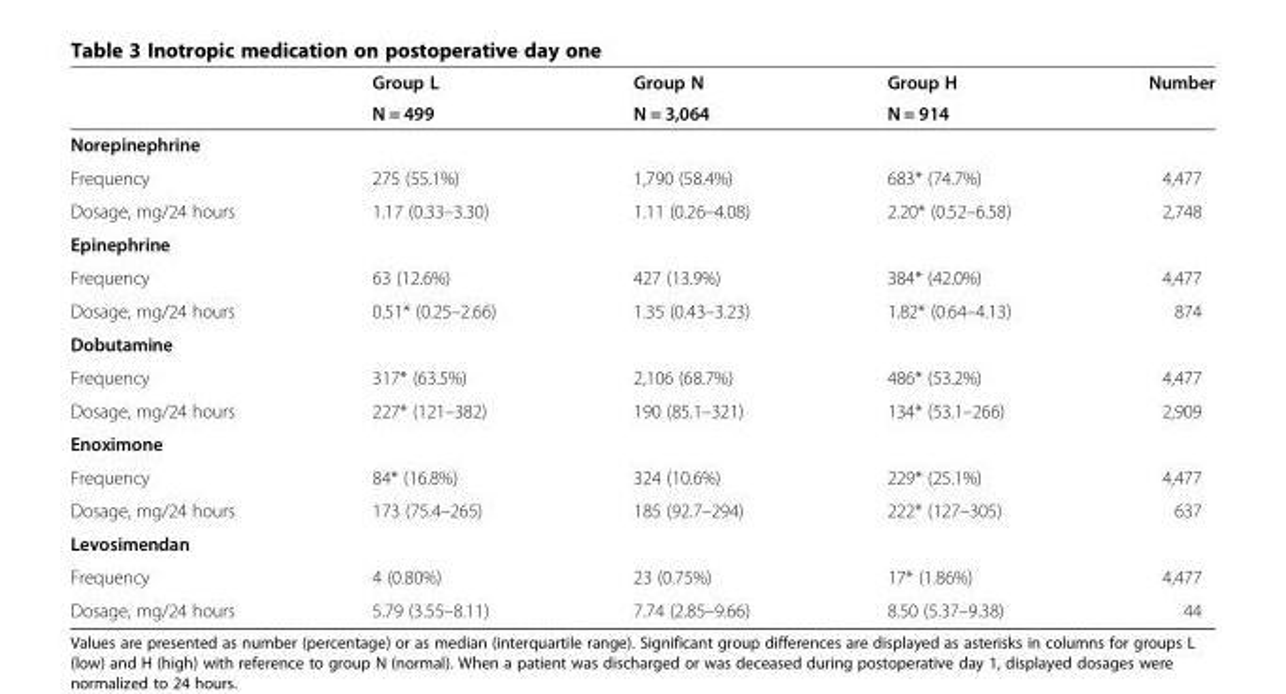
<table><thead><tr><td rowspan="2"></td><td rowspan="2">Group L N = 499</td><td rowspan="2">Group N N = 3,064</td><td rowspan="2">Group H N = 914</td><td rowspan="2">Number</td></tr><tr></tr></thead><tbody><tr><td colspan="5">Norepinephrine</td></tr><tr><td>Frequency</td><td>275 (55.1%)</td><td>1,790 (58.4%)</td><td>683* (74.7%)</td><td>4,477</td></tr><tr><td>Dosage, mg/24 hours</td><td>1.17 (0.33–3.30)</td><td>1.11 (0.26–4.08)</td><td>2.20* (0.52–6.58)</td><td>2,748</td></tr><tr><td colspan="5">Epinephrine</td></tr><tr><td>Frequency</td><td>63 (12.6%)</td><td>427 (13.9%)</td><td>384* (42.0%)</td><td>4,477</td></tr><tr><td>Dosage, mg/24 hours</td><td>0.51* (0.25–2.66)</td><td>1.35 (0.43–3.23)</td><td>1.82* (0.64–4.13)</td><td>874</td></tr><tr><td colspan="5">Dobutamine</td></tr><tr><td>Frequency</td><td>317* (63.5%)</td><td>2,106 (68.7%)</td><td>486* (53.2%)</td><td>4,477</td></tr><tr><td>Dosage, mg/24 hours</td><td>227* (121–382)</td><td>190 (85.1–321)</td><td>134* (53.1–266)</td><td>2,909</td></tr><tr><td colspan="5">Enoximone</td></tr><tr><td>Frequency</td><td>84* (16.8%)</td><td>324 (10.6%)</td><td>229* (25.1%)</td><td>4,477</td></tr><tr><td>Dosage, mg/24 hours</td><td>173 (75.4–265)</td><td>185 (92.7–294)</td><td>222* (127–305)</td><td>637</td></tr><tr><td colspan="5">Levosimendan</td></tr><tr><td>Frequency</td><td>4 (0.80%)</td><td>23 (0.75%)</td><td>17* (1.86%)</td><td>4,477</td></tr><tr><td>Dosage, mg/24 hours</td><td>5.79 (3.55–8.11)</td><td>7.74 (2.85–9.66)</td><td>8.50 (5.37–9.38)</td><td>44</td></tr></tbody></table>